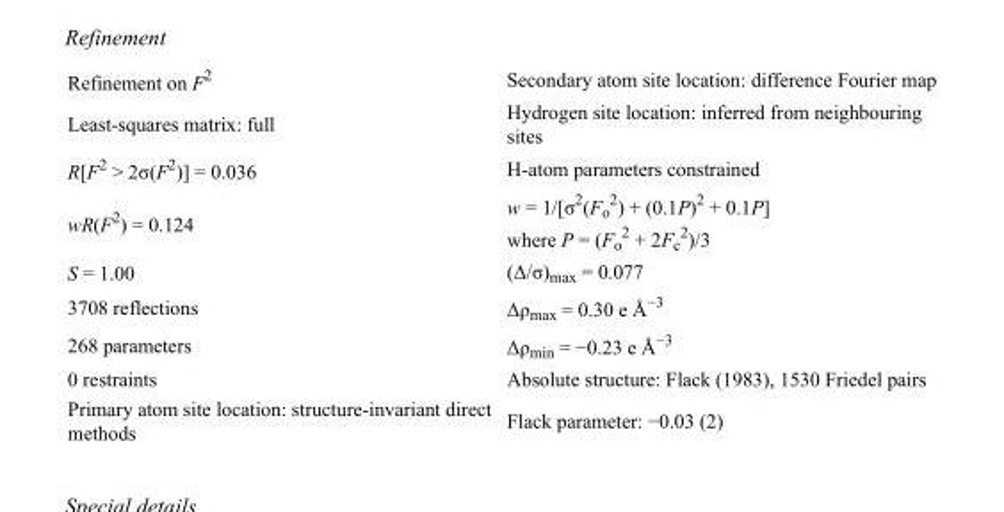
<table><tbody><tr><td>Refinement on F<sup>2</sup></td><td>Secondary atom site location: difference Fourier map</td></tr><tr><td>Least-squares matrix: full</td><td>Hydrogen site location: inferred from neighbouring sites</td></tr><tr><td>R[F<sup>2</sup> &gt; 2σ(F<sup>2</sup>)] = 0.036</td><td>H-atom parameters constrained</td></tr><tr><td>wR(F<sup>2</sup>) = 0.124</td><td>w = 1/[σ<sup>2</sup>(F<sub>o</sub> <sup>2</sup>) + (0.1P)<sup>2</sup> + 0.1P] where P = (F<sub>o</sub> <sup>2</sup> + 2F<sub>c</sub> <sup>2</sup>)/3</td></tr><tr><td>S = 1.00</td><td>(Δ/σ)<sub>max</sub> = 0.077</td></tr><tr><td>3708 reflections</td><td>Δρ<sub>max</sub> = 0.30 e Å<sup>−3</sup></td></tr><tr><td>268 parameters</td><td>Δρ<sub>min</sub> = −0.23 e Å<sup>−3</sup></td></tr><tr><td>0 restraints</td><td>Absolute structure: Flack (1983), 1530 Friedel pairs</td></tr><tr><td>Primary atom site location: structure-invariant direct methods</td><td>Flack parameter: −0.03 (2)</td></tr></tbody></table>